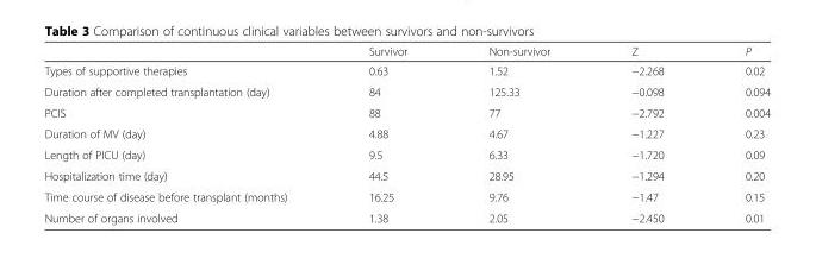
<table><thead><tr><td></td><td>Survivor</td><td>Non-survivor</td><td>Z</td><td>P</td></tr></thead><tbody><tr><td>Types of supportive therapies</td><td>0.63</td><td>1.52</td><td>−2.268</td><td>0.02</td></tr><tr><td>Duration after completed transplantation (day)</td><td>84</td><td>125.33</td><td>−0.098</td><td>0.094</td></tr><tr><td>PCIS</td><td>88</td><td>77</td><td>−2.792</td><td>0.004</td></tr><tr><td>Duration of MV (day)</td><td>4.88</td><td>4.67</td><td>−1.227</td><td>0.23</td></tr><tr><td>Length of PICU (day)</td><td>9.5</td><td>6.33</td><td>−1.720</td><td>0.09</td></tr><tr><td>Hospitalization time (day)</td><td>44.5</td><td>28.95</td><td>−1.294</td><td>0.20</td></tr><tr><td>Time course of disease before transplant (months)</td><td>16.25</td><td>9.76</td><td>−1.47</td><td>0.15</td></tr><tr><td>Number of organs involved</td><td>1.38</td><td>2.05</td><td>−2.450</td><td>0.01</td></tr></tbody></table>